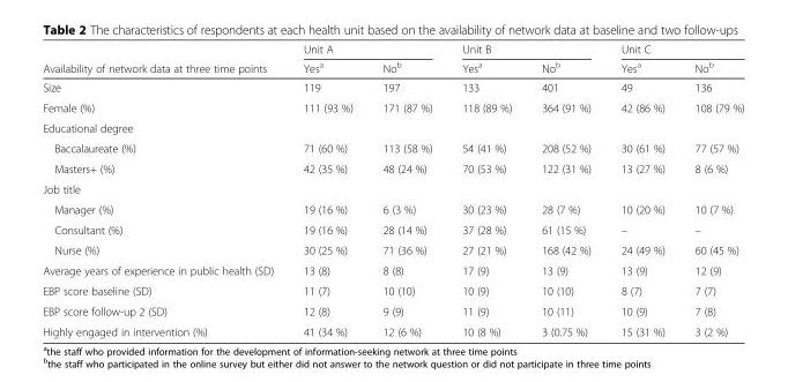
<table><thead><tr><td rowspan="2">Availability of network data at three time points</td><td colspan="2">Unit A</td><td colspan="2">Unit B</td><td colspan="2">Unit C</td></tr><tr><td>Yes<sup>a</sup></td><td>No<sup>b</sup></td><td>Yes<sup>a</sup></td><td>No<sup>b</sup></td><td>Yes<sup>a</sup></td><td>No<sup>b</sup></td></tr></thead><tbody><tr><td>Size</td><td>119</td><td>197</td><td>133</td><td>401</td><td>49</td><td>136</td></tr><tr><td>Female (%)</td><td>111 (93 %)</td><td>171 (87 %)</td><td>118 (89 %)</td><td>364 (91 %)</td><td>42 (86 %)</td><td>108 (79 %)</td></tr><tr><td colspan="7">Educational degree</td></tr><tr><td>Baccalaureate (%)</td><td>71 (60 %)</td><td>113 (58 %)</td><td>54 (41 %)</td><td>208 (52 %)</td><td>30 (61 %)</td><td>77 (57 %)</td></tr><tr><td>Masters+ (%)</td><td>42 (35 %)</td><td>48 (24 %)</td><td>70 (53 %)</td><td>122 (31 %)</td><td>13 (27 %)</td><td>8 (6 %)</td></tr><tr><td colspan="7">Job title</td></tr><tr><td>Manager (%)</td><td>19 (16 %)</td><td>6 (3 %)</td><td>30 (23 %)</td><td>28 (7 %)</td><td>10 (20 %)</td><td>10 (7 %)</td></tr><tr><td>Consultant (%)</td><td>19 (16 %)</td><td>28 (14 %)</td><td>37 (28 %)</td><td>61 (15 %)</td><td>–</td><td>–</td></tr><tr><td>Nurse (%)</td><td>30 (25 %)</td><td>71 (36 %)</td><td>27 (21 %)</td><td>168 (42 %)</td><td>24 (49 %)</td><td>60 (45 %)</td></tr><tr><td>Average years of experience in public health (SD)</td><td>13 (8)</td><td>8 (8)</td><td>17 (9)</td><td>13 (9)</td><td>13 (9)</td><td>12 (9)</td></tr><tr><td>EBP score baseline (SD)</td><td>11 (7)</td><td>10 (10)</td><td>10 (9)</td><td>10 (10)</td><td>8 (7)</td><td>7 (7)</td></tr><tr><td>EBP score follow-up 2 (SD)</td><td>12 (8)</td><td>9 (9)</td><td>11 (9)</td><td>10 (11)</td><td>10 (9)</td><td>7 (8)</td></tr><tr><td>Highly engaged in intervention (%)</td><td>41 (34 %)</td><td>12 (6 %)</td><td>10 (8 %)</td><td>3 (0.75 %)</td><td>15 (31 %)</td><td>3 (2 %)</td></tr></tbody></table>